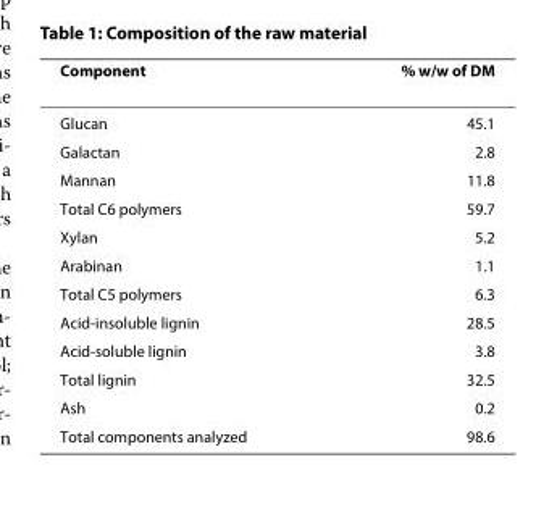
<table><thead><tr><td>Component</td><td>% w/w of DM</td></tr></thead><tbody><tr><td>Glucan</td><td>45.1</td></tr><tr><td>Galactan</td><td>2.8</td></tr><tr><td>Mannan</td><td>11.8</td></tr><tr><td>Total C6 polymers</td><td>59.7</td></tr><tr><td>Xylan</td><td>5.2</td></tr><tr><td>Arabinan</td><td>1.1</td></tr><tr><td>Total C5 polymers</td><td>6.3</td></tr><tr><td>Acid-insoluble lignin</td><td>28.5</td></tr><tr><td>Acid-soluble lignin</td><td>3.8</td></tr><tr><td>Total lignin</td><td>32.5</td></tr><tr><td>Ash</td><td>0.2</td></tr><tr><td>Total components analyzed</td><td>98.6</td></tr></tbody></table>